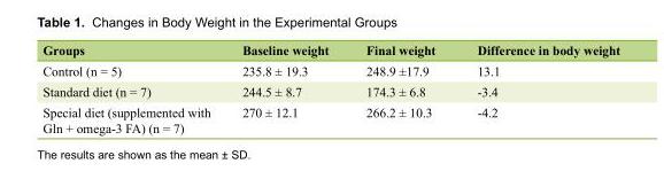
<table><thead><tr><td>Groups</td><td>Baseline weight</td><td>Final weight</td><td>Difference in body weight</td></tr></thead><tbody><tr><td>Control (n = 5)</td><td>235.8 ± 19.3</td><td>248.9 ±17.9</td><td>13.1</td></tr><tr><td>Standard diet (n = 7)</td><td>244.5 ± 8.7</td><td>174.3 ± 6.8</td><td>-3.4</td></tr><tr><td>Special diet (supplemented with Gln + omega-3 FA) (n = 7)</td><td>270 ± 12.1</td><td>266.2 ± 10.3</td><td>-4.2</td></tr></tbody></table>